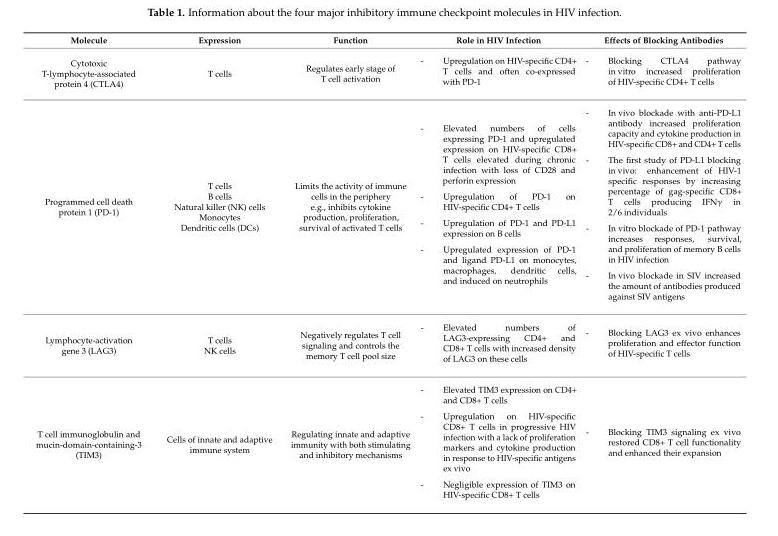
<table><thead><tr><td>Molecule</td><td>Expression</td><td>Function</td><td>Role in HIV Infection</td><td>Effects of Blocking Antibodies</td></tr></thead><tbody><tr><td>Cytotoxic T-lymphocyte-associated protein 4 (CTLA4)</td><td>T cells</td><td>Regulates early stage of T cell activation</td><td>- Upregulation on HIV-specific CD4+ T cells and often co-expressed with PD-1</td><td>- Blocking CTLA4 pathway in vitro increased proliferation of HIV-specific CD4+ T cells</td></tr><tr><td>Programmed cell death protein 1 (PD-1)</td><td>T cells B cells Natural killer (NK) cells Monocytes Dendritic cells (DCs)</td><td>Limits the activity of immune cells in the periphery e.g., inhibits cytokine production, proliferation, survival of activated T cells</td><td>- Elevated numbers of cells expressing PD-1 and upregulated expression on HIV-specific CD8+ T cells elevated during chronic infection with loss of CD28 and perforin expression - Upregulation of PD-1 on HIV-specific CD4+ T cells - Upregulation of PD-1 and PD-L1 expression on B cells - Upregulated expression of PD-1 and ligand PD-L1 on monocytes, macrophages, dendritic cells, and induced on neutrophils</td><td>- In vivo blockade with anti-PD-L1 antibody increased proliferation capacity and cytokine production in HIV-specific CD8+ and CD4+ T cells - The first study of PD-L1 blocking in vivo: enhancement of HIV-1 specific responses by increasing percentage of gag-specific CD8+ T cells producing IFNγ in 2/6 individuals - In vitro blockade of PD-1 pathway increases responses, survival, and proliferation of memory B cells in HIV infection - In vivo blockade in SIV increased the amount of antibodies produced against SIV antigens</td></tr><tr><td>Lymphocyte-activation gene 3 (LAG3)</td><td>T cells NK cells</td><td>Negatively regulates T cell signaling and controls the memory T cell pool size</td><td>- Elevated numbers of LAG3-expressing CD4+ and CD8+ T cells with increased density of LAG3 on these cells</td><td>- Blocking LAG3 ex vivo enhances proliferation and effector function of HIV-specific T cells</td></tr><tr><td>T cell immunoglobulin and mucin-domain-containing-3 (TIM3)</td><td>Cells of innate and adaptive immune system</td><td>Regulating innate and adaptive immunity with both stimulating and inhibitory mechanisms</td><td>- Elevated TIM3 expression on CD4+ and CD8+ T cells - Upregulation on HIV-specific CD8+ T cells in progressive HIV infection with a lack of proliferation markers and cytokine production in response to HIV-specific antigens ex vivo - Negligible expression of TIM3 on HIV-specific CD8+ T cells</td><td>- Blocking TIM3 signaling ex vivo restored CD8+ T cell functionality and enhanced their expansion</td></tr></tbody></table>